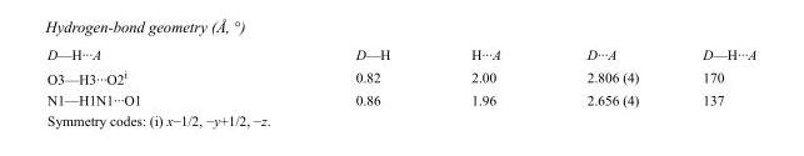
<table><tbody><tr><td>D—H···A</td><td>D—H</td><td>H···A</td><td>D···A</td><td>D—H···A</td></tr><tr><td>O3—H3···O2<sup>i</sup></td><td>0.82</td><td>2.00</td><td>2.806 (4)</td><td>170</td></tr><tr><td>N1—H1N1···O1</td><td>0.86</td><td>1.96</td><td>2.656 (4)</td><td>137</td></tr></tbody></table>